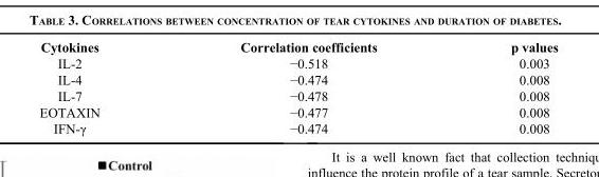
<table><thead><tr><td>Cytokines</td><td>Correlation coefficients</td><td>p values</td></tr></thead><tbody><tr><td>IL-2</td><td>−0.518</td><td>0.003</td></tr><tr><td>IL-4</td><td>−0.474</td><td>0.008</td></tr><tr><td>IL-7</td><td>−0.478</td><td>0.008</td></tr><tr><td>EOTAXIN</td><td>−0.477</td><td>0.008</td></tr><tr><td>IFN-γ</td><td>−0.474</td><td>0.008</td></tr></tbody></table>